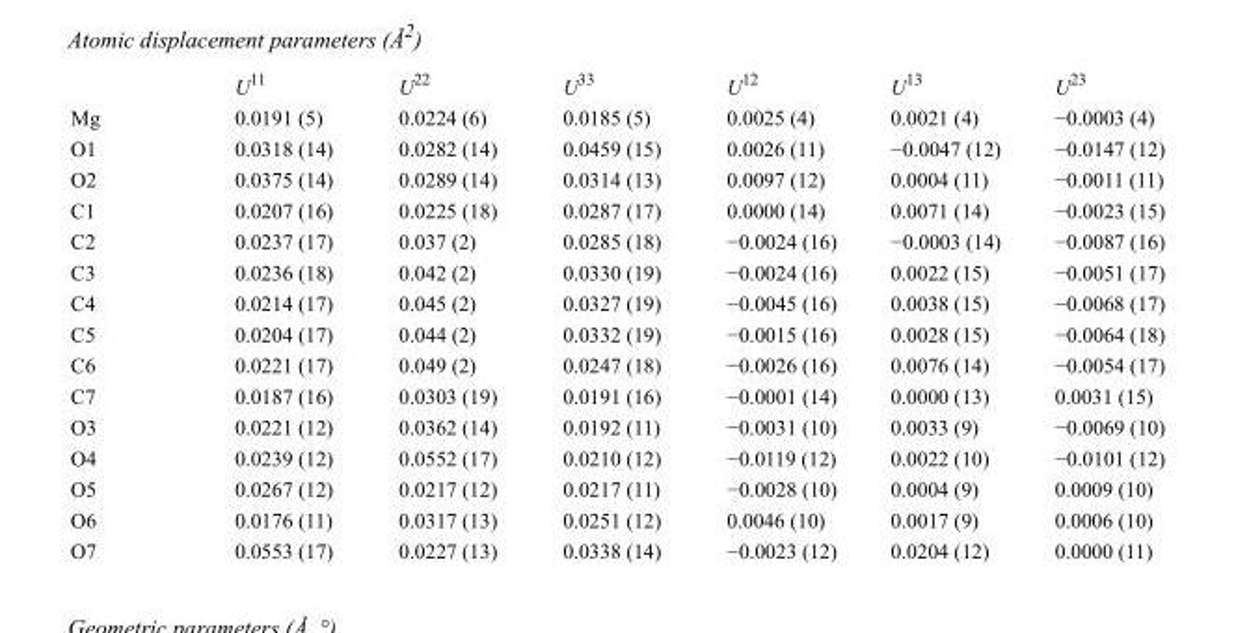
<table><thead><tr><td></td><td>U<sup>11</sup></td><td>U<sup>22</sup></td><td>U<sup>33</sup></td><td>U<sup>12</sup></td><td>U<sup>13</sup></td><td>U<sup>23</sup></td></tr></thead><tbody><tr><td>Mg</td><td>0.0191 (5)</td><td>0.0224 (6)</td><td>0.0185 (5)</td><td>0.0025 (4)</td><td>0.0021 (4)</td><td>−0.0003 (4)</td></tr><tr><td>O1</td><td>0.0318 (14)</td><td>0.0282 (14)</td><td>0.0459 (15)</td><td>0.0026 (11)</td><td>−0.0047 (12)</td><td>−0.0147 (12)</td></tr><tr><td>O2</td><td>0.0375 (14)</td><td>0.0289 (14)</td><td>0.0314 (13)</td><td>0.0097 (12)</td><td>0.0004 (11)</td><td>−0.0011 (11)</td></tr><tr><td>C1</td><td>0.0207 (16)</td><td>0.0225 (18)</td><td>0.0287 (17)</td><td>0.0000 (14)</td><td>0.0071 (14)</td><td>−0.0023 (15)</td></tr><tr><td>C2</td><td>0.0237 (17)</td><td>0.037 (2)</td><td>0.0285 (18)</td><td>−0.0024 (16)</td><td>−0.0003 (14)</td><td>−0.0087 (16)</td></tr><tr><td>C3</td><td>0.0236 (18)</td><td>0.042 (2)</td><td>0.0330 (19)</td><td>−0.0024 (16)</td><td>0.0022 (15)</td><td>−0.0051 (17)</td></tr><tr><td>C4</td><td>0.0214 (17)</td><td>0.045 (2)</td><td>0.0327 (19)</td><td>−0.0045 (16)</td><td>0.0038 (15)</td><td>−0.0068 (17)</td></tr><tr><td>C5</td><td>0.0204 (17)</td><td>0.044 (2)</td><td>0.0332 (19)</td><td>−0.0015 (16)</td><td>0.0028 (15)</td><td>−0.0064 (18)</td></tr><tr><td>C6</td><td>0.0221 (17)</td><td>0.049 (2)</td><td>0.0247 (18)</td><td>−0.0026 (16)</td><td>0.0076 (14)</td><td>−0.0054 (17)</td></tr><tr><td>C7</td><td>0.0187 (16)</td><td>0.0303 (19)</td><td>0.0191 (16)</td><td>−0.0001 (14)</td><td>0.0000 (13)</td><td>0.0031 (15)</td></tr><tr><td>O3</td><td>0.0221 (12)</td><td>0.0362 (14)</td><td>0.0192 (11)</td><td>−0.0031 (10)</td><td>0.0033 (9)</td><td>−0.0069 (10)</td></tr><tr><td>O4</td><td>0.0239 (12)</td><td>0.0552 (17)</td><td>0.0210 (12)</td><td>−0.0119 (12)</td><td>0.0022 (10)</td><td>−0.0101 (12)</td></tr><tr><td>O5</td><td>0.0267 (12)</td><td>0.0217 (12)</td><td>0.0217 (11)</td><td>−0.0028 (10)</td><td>0.0004 (9)</td><td>0.0009 (10)</td></tr><tr><td>O6</td><td>0.0176 (11)</td><td>0.0317 (13)</td><td>0.0251 (12)</td><td>0.0046 (10)</td><td>0.0017 (9)</td><td>0.0006 (10)</td></tr><tr><td>O7</td><td>0.0553 (17)</td><td>0.0227 (13)</td><td>0.0338 (14)</td><td>−0.0023 (12)</td><td>0.0204 (12)</td><td>0.0000 (11)</td></tr></tbody></table>